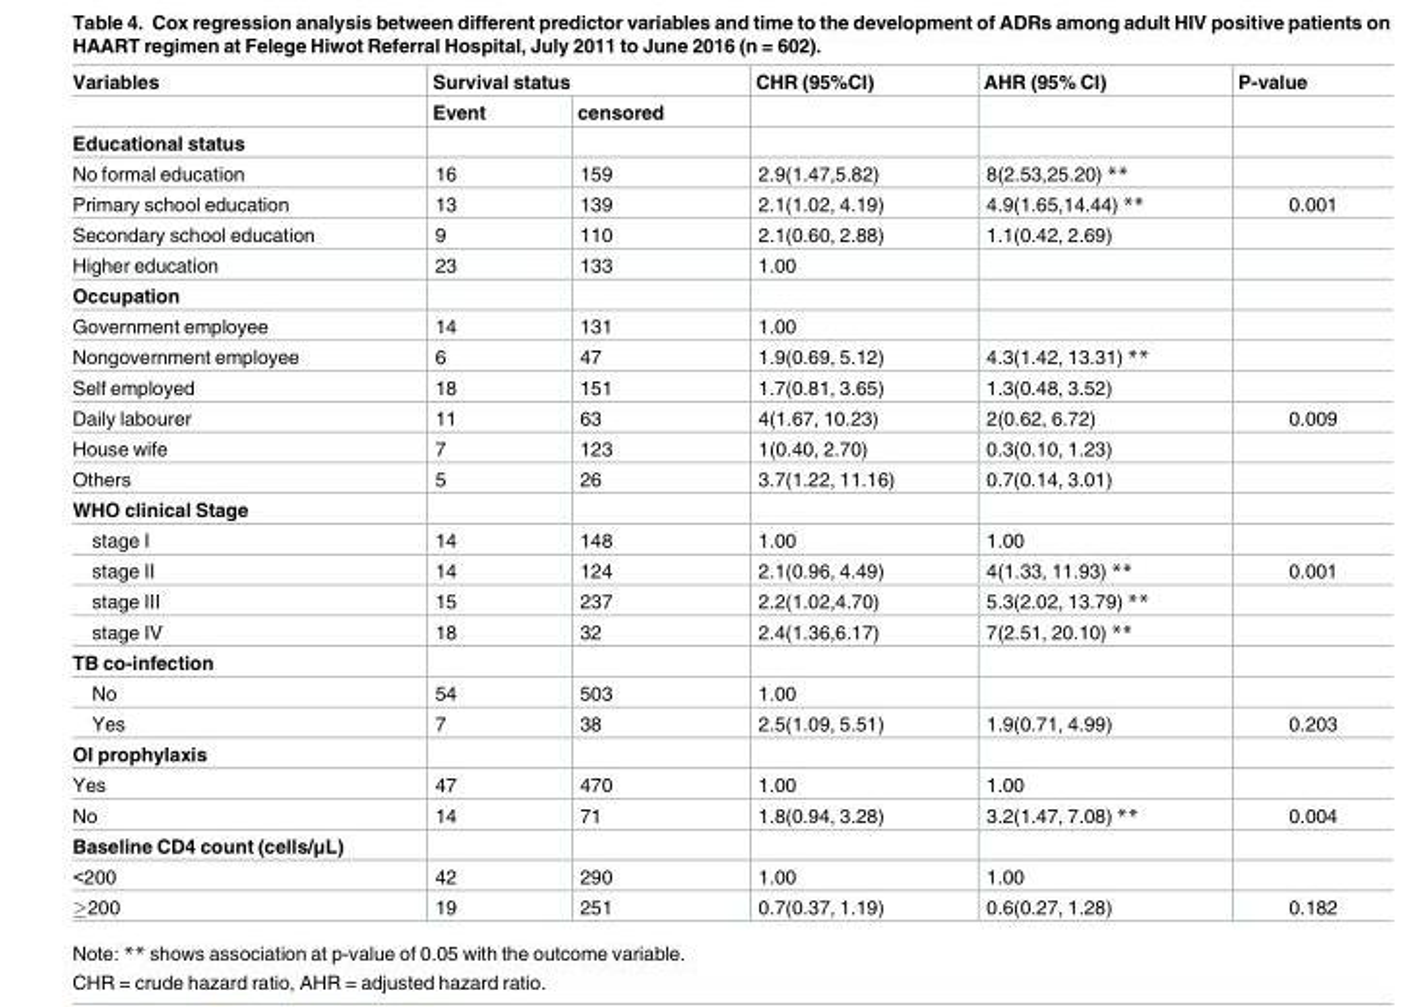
<table><thead><tr><td rowspan="2">Variables</td><td colspan="2">Survival status</td><td rowspan="2">CHR (95%CI)</td><td rowspan="2">AHR (95% CI)</td><td rowspan="2">P-value</td></tr><tr><td>Event</td><td>censored</td></tr></thead><tbody><tr><td colspan="6">Educational status</td></tr><tr><td>No formal education</td><td>16</td><td>159</td><td>2.9(1.47,5.82)</td><td>8(2.53,25.20) **</td><td></td></tr><tr><td>Primary school education</td><td>13</td><td>139</td><td>2.1(1.02, 4.19)</td><td>4.9(1.65,14.44) **</td><td>0.001</td></tr><tr><td>Secondary school education</td><td>9</td><td>110</td><td>2.1(0.60, 2.88)</td><td>1.1(0.42, 2.69)</td><td></td></tr><tr><td>Higher education</td><td>23</td><td>133</td><td>1.00</td><td></td><td></td></tr><tr><td colspan="6">Occupation</td></tr><tr><td>Government employee</td><td>14</td><td>131</td><td>1.00</td><td></td><td></td></tr><tr><td>Nongovernment employee</td><td>6</td><td>47</td><td>1.9(0.69, 5.12)</td><td>4.3(1.42, 13.31) **</td><td></td></tr><tr><td>Self employed</td><td>18</td><td>151</td><td>1.7(0.81, 3.65)</td><td>1.3(0.48, 3.52)</td><td></td></tr><tr><td>Daily labourer</td><td>11</td><td>63</td><td>4(1.67, 10.23)</td><td>2(0.62, 6.72)</td><td>0.009</td></tr><tr><td>House wife</td><td>7</td><td>123</td><td>1(0.40, 2.70)</td><td>0.3(0.10, 1.23)</td><td></td></tr><tr><td>Others</td><td>5</td><td>26</td><td>3.7(1.22, 11.16)</td><td>0.7(0.14, 3.01)</td><td></td></tr><tr><td colspan="6">WHO clinical Stage</td></tr><tr><td>stage I</td><td>14</td><td>148</td><td>1.00</td><td>1.00</td><td></td></tr><tr><td>stage II</td><td>14</td><td>124</td><td>2.1(0.96, 4.49)</td><td>4(1.33, 11.93) **</td><td>0.001</td></tr><tr><td>stage III</td><td>15</td><td>237</td><td>2.2(1.02,4.70)</td><td>5.3(2.02, 13.79) **</td><td></td></tr><tr><td>stage IV</td><td>18</td><td>32</td><td>2.4(1.36,6.17)</td><td>7(2.51, 20.10) **</td><td></td></tr><tr><td colspan="6">TB co-infection</td></tr><tr><td>No</td><td>54</td><td>503</td><td>1.00</td><td></td><td></td></tr><tr><td>Yes</td><td>7</td><td>38</td><td>2.5(1.09, 5.51)</td><td>1.9(0.71, 4.99)</td><td>0.203</td></tr><tr><td colspan="6">OI prophylaxis</td></tr><tr><td>Yes</td><td>47</td><td>470</td><td>1.00</td><td>1.00</td><td></td></tr><tr><td>No</td><td>14</td><td>71</td><td>1.8(0.94, 3.28)</td><td>3.2(1.47, 7.08) **</td><td>0.004</td></tr><tr><td colspan="6">Baseline CD4 count (cells/μL)</td></tr><tr><td>&lt;200</td><td>42</td><td>290</td><td>1.00</td><td>1.00</td><td></td></tr><tr><td>≥200</td><td>19</td><td>251</td><td>0.7(0.37, 1.19)</td><td>0.6(0.27, 1.28)</td><td>0.182</td></tr></tbody></table>